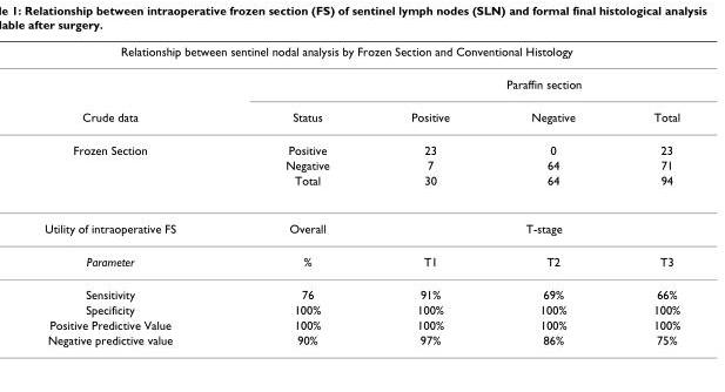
<table><thead><tr><td colspan="5">Relationship between sentinel nodal analysis by Frozen Section and Conventional Histology</td></tr><tr><td rowspan="2">Crude data</td><td rowspan="2">Status</td><td colspan="3">Paraffin section</td></tr><tr><td>Positive</td><td>Negative</td><td>Total</td></tr></thead><tbody><tr><td rowspan="3">Frozen Section</td><td>Positive</td><td>23</td><td>0</td><td>23</td></tr><tr><td>Negative</td><td>7</td><td>64</td><td>71</td></tr><tr><td>Total</td><td>30</td><td>64</td><td>94</td></tr><tr><td>Utility of intraoperative FS</td><td>Overall</td><td colspan="3">T-stage</td></tr><tr><td>Parameter</td><td>%</td><td>T1</td><td>T2</td><td>T3</td></tr><tr><td>Sensitivity</td><td>76</td><td>91%</td><td>69%</td><td>66%</td></tr><tr><td>Specificity</td><td>100%</td><td>100%</td><td>100%</td><td>100%</td></tr><tr><td>Positive Predictive Value</td><td>100%</td><td>100%</td><td>100%</td><td>100%</td></tr><tr><td>Negative predictive value</td><td>90%</td><td>97%</td><td>86%</td><td>75%</td></tr></tbody></table>